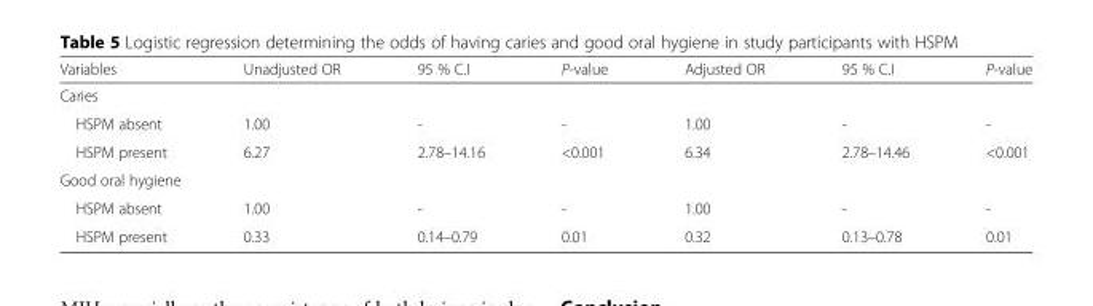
<table><thead><tr><td>Variables</td><td>Unadjusted OR</td><td>95 % C.I</td><td>P-value</td><td>Adjusted OR</td><td>95 % C.I</td><td>P-value</td></tr></thead><tbody><tr><td colspan="7">Caries</td></tr><tr><td>HSPM absent</td><td>1.00</td><td>-</td><td>-</td><td>1.00</td><td>-</td><td>-</td></tr><tr><td>HSPM present</td><td>6.27</td><td>2.78–14.16</td><td>&lt;0.001</td><td>6.34</td><td>2.78–14.46</td><td>&lt;0.001</td></tr><tr><td colspan="7">Good oral hygiene</td></tr><tr><td>HSPM absent</td><td>1.00</td><td>-</td><td>-</td><td>1.00</td><td>-</td><td>-</td></tr><tr><td>HSPM present</td><td>0.33</td><td>0.14–0.79</td><td>0.01</td><td>0.32</td><td>0.13–0.78</td><td>0.01</td></tr></tbody></table>